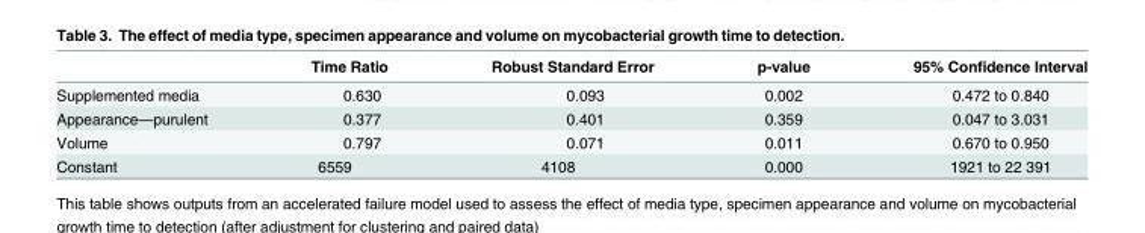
<table><thead><tr><td></td><td>Time Ratio</td><td>Robust Standard Error</td><td>p-value</td><td>95% Confidence Interval</td></tr></thead><tbody><tr><td>Supplemented media</td><td>0.630</td><td>0.093</td><td>0.002</td><td>0.472 to 0.840</td></tr><tr><td>Appearance—purulent</td><td>0.377</td><td>0.401</td><td>0.359</td><td>0.047 to 3.031</td></tr><tr><td>Volume</td><td>0.797</td><td>0.071</td><td>0.011</td><td>0.670 to 0.950</td></tr><tr><td>Constant</td><td>6559</td><td>4108</td><td>0.000</td><td>1921 to 22 391</td></tr></tbody></table>